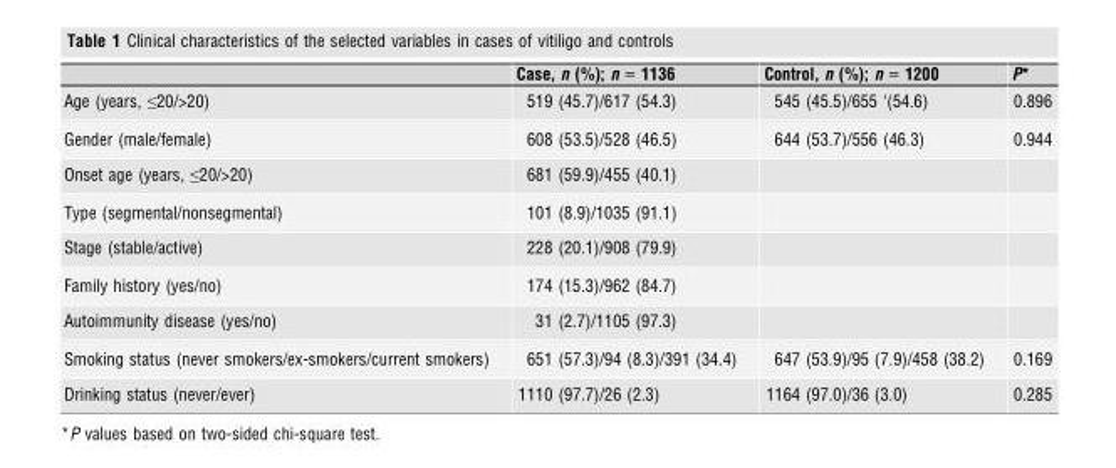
<table><thead><tr><td></td><td>Case, n (%); n = 1136</td><td>Control, n (%); n = 1200</td><td>P*</td></tr></thead><tbody><tr><td>Age (years, ≤20/&gt;20)</td><td>519 (45.7)/617 (54.3)</td><td>545 (45.5)/655 ‘(54.6)</td><td>0.896</td></tr><tr><td>Gender (male/female)</td><td>608 (53.5)/528 (46.5)</td><td>644 (53.7)/556 (46.3)</td><td>0.944</td></tr><tr><td>Onset age (years, ≤20/&gt;20)</td><td>681 (59.9)/455 (40.1)</td><td></td><td></td></tr><tr><td>Type (segmental/nonsegmental)</td><td>101 (8.9)/1035 (91.1)</td><td></td><td></td></tr><tr><td>Stage (stable/active)</td><td>228 (20.1)/908 (79.9)</td><td></td><td></td></tr><tr><td>Family history (yes/no)</td><td>174 (15.3)/962 (84.7)</td><td></td><td></td></tr><tr><td>Autoimmunity disease (yes/no)</td><td>31 (2.7)/1105 (97.3)</td><td></td><td></td></tr><tr><td>Smoking status (never smokers/ex-smokers/current smokers)</td><td>651 (57.3)/94 (8.3)/391 (34.4)</td><td>647 (53.9)/95 (7.9)/458 (38.2)</td><td>0.169</td></tr><tr><td>Drinking status (never/ever)</td><td>1110 (97.7)/26 (2.3)</td><td>1164 (97.0)/36 (3.0)</td><td>0.285</td></tr></tbody></table>